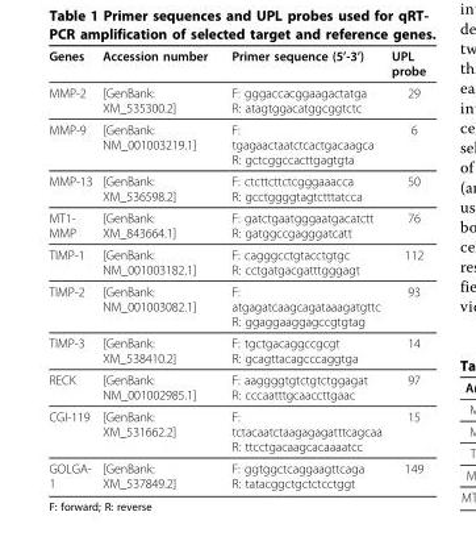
<table><thead><tr><td>Genes</td><td>Accession number</td><td>Primer sequence (5’-3’)</td><td>UPL probe</td></tr></thead><tbody><tr><td>MMP-2</td><td>[GenBank: XM_535300.2]</td><td>F: gggaccacggaagactatga R: atagtggacatggcggtctc</td><td>29</td></tr><tr><td>MMP-9</td><td>[GenBank: NM_001003219.1]</td><td>F: tgagaactaatctcactgacaagca R: gctcggccacttgagtgta</td><td>6</td></tr><tr><td>MMP-13</td><td>[GenBank: XM_536598.2]</td><td>F: ctcttcttctcgggaaacca R: gcctggggtagtctttatcca</td><td>50</td></tr><tr><td>MT1- MMP</td><td>[GenBank: XM_843664.1]</td><td>F: gatctgaatgggaatgacatctt R: gatggccgagggatcatt</td><td>76</td></tr><tr><td>TIMP-1</td><td>[GenBank: NM_001003182.1]</td><td>F: cagggcctgtacctgtgc R: cctgatgacgatttgggagt</td><td>112</td></tr><tr><td>TIMP-2</td><td>[GenBank: NM_001003082.1]</td><td>F: atgagatcaagcagataaagatgttc R: ggaggaaggagccgtgtag</td><td>93</td></tr><tr><td>TIMP-3</td><td>[GenBank: XM_538410.2]</td><td>F: tgctgacaggccgcgt R: gcagttacagcccaggtga</td><td>14</td></tr><tr><td>RECK</td><td>[GenBank: NM_001002985.1]</td><td>F: aaggggtgtctgtctggagat R: cccaatttgcaaccttgaac</td><td>97</td></tr><tr><td>CGI-119</td><td>[GenBank: XM_531662.2]</td><td>F: tctacaatctaagagagatttcagcaa R: ttcctgacaagcacaaaatcc</td><td>15</td></tr><tr><td>GOLGA- 1</td><td>[GenBank: XM_537849.2]</td><td>F: ggtggctcaggaagttcaga R: tatacggctgctctcctggt</td><td>149</td></tr></tbody></table>